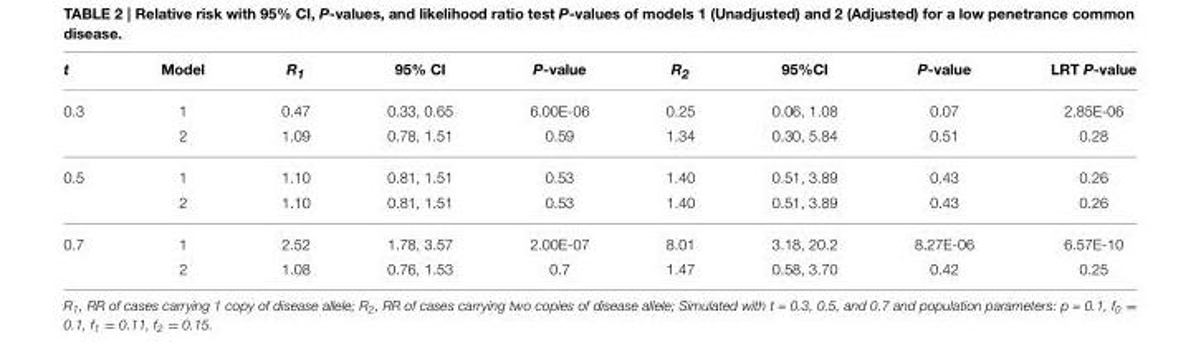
<table><thead><tr><td>t</td><td>Model</td><td>R<sub>1</sub></td><td>95% CI</td><td>P-value</td><td>R<sub>2</sub></td><td>95%CI</td><td>P-value</td><td>LRT P-value</td></tr></thead><tbody><tr><td rowspan="2">0.3</td><td>1</td><td>0.47</td><td>0.33, 0.65</td><td>6.00E-06</td><td>0.25</td><td>0.06, 1.08</td><td>0.07</td><td>2.85E-06</td></tr><tr><td>2</td><td>1.09</td><td>0.78, 1.51</td><td>0.59</td><td>1.34</td><td>0.30, 5.84</td><td>0.51</td><td>0.28</td></tr><tr><td rowspan="2">0.5</td><td>1</td><td>1.10</td><td>0.81, 1.51</td><td>0.53</td><td>1.40</td><td>0.51, 3.89</td><td>0.43</td><td>0.26</td></tr><tr><td>2</td><td>1.10</td><td>0.81, 1.51</td><td>0.53</td><td>1.40</td><td>0.51, 3.89</td><td>0.43</td><td>0.26</td></tr><tr><td rowspan="2">0.7</td><td>1</td><td>2.52</td><td>1.78, 3.57</td><td>2.00E-07</td><td>8.01</td><td>3.18, 20.2</td><td>8.27E-06</td><td>6.57E-10</td></tr><tr><td>2</td><td>1.08</td><td>0.76, 1.53</td><td>0.7</td><td>1.47</td><td>0.58, 3.70</td><td>0.42</td><td>0.25</td></tr></tbody></table>